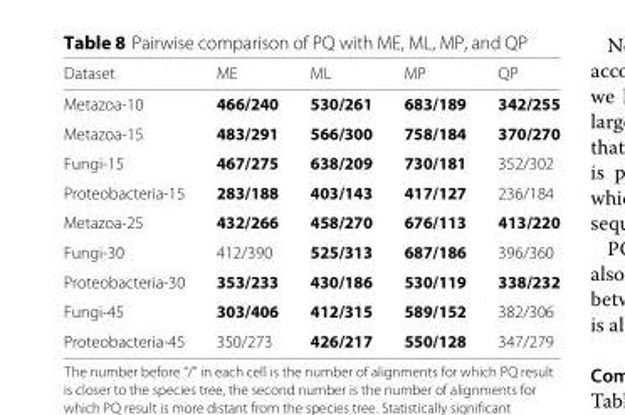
<table><thead><tr><td>Dataset</td><td>ME</td><td>ML</td><td>MP</td><td>QP</td></tr></thead><tbody><tr><td>Metazoa-10</td><td>466/240</td><td>530/261</td><td>683/189</td><td>342/255</td></tr><tr><td>Metazoa-15</td><td>483/291</td><td>566/300</td><td>758/184</td><td>370/270</td></tr><tr><td>Fungi-15</td><td>467/275</td><td>638/209</td><td>730/181</td><td>352/302</td></tr><tr><td>Proteobacteria-15</td><td>283/188</td><td>403/143</td><td>417/127</td><td>236/184</td></tr><tr><td>Metazoa-25</td><td>432/266</td><td>458/270</td><td>676/113</td><td>413/220</td></tr><tr><td>Fungi-30</td><td>412/390</td><td>525/313</td><td>687/186</td><td>396/360</td></tr><tr><td>Proteobacteria-30</td><td>353/233</td><td>430/186</td><td>530/119</td><td>338/232</td></tr><tr><td>Fungi-45</td><td>303/406</td><td>412/315</td><td>589/152</td><td>382/306</td></tr><tr><td>Proteobacteria-45</td><td>350/273</td><td>426/217</td><td>550/128</td><td>347/279</td></tr></tbody></table>